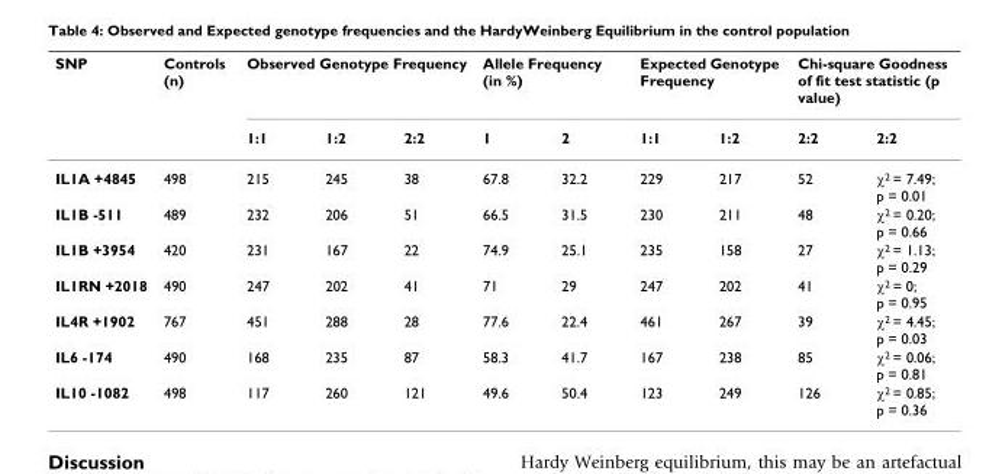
<table><thead><tr><td rowspan="2">SNP</td><td rowspan="2">Controls (n)</td><td colspan="3">Observed Genotype Frequency</td><td colspan="2">Allele Frequency (in %)</td><td colspan="2">Expected Genotype Frequency</td><td colspan="2">Chi-square Goodness of fit test statistic (p value)</td></tr><tr><td>1:1</td><td>1:2</td><td>2:2</td><td>1</td><td>2</td><td>1:1</td><td>1:2</td><td>2:2</td><td>2:2</td></tr></thead><tbody><tr><td>IL1A +4845</td><td>498</td><td>215</td><td>245</td><td>38</td><td>67.8</td><td>32.2</td><td>229</td><td>217</td><td>52</td><td>χ2 = 7.49; p = 0.01</td></tr><tr><td>IL1B -511</td><td>489</td><td>232</td><td>206</td><td>51</td><td>66.5</td><td>31.5</td><td>230</td><td>211</td><td>48</td><td>χ2 = 0.20; p = 0.66</td></tr><tr><td>IL1B +3954</td><td>420</td><td>231</td><td>167</td><td>22</td><td>74.9</td><td>25.1</td><td>235</td><td>158</td><td>27</td><td>χ2 = 1.13; p = 0.29</td></tr><tr><td>IL1RN +2018</td><td>490</td><td>247</td><td>202</td><td>41</td><td>71</td><td>29</td><td>247</td><td>202</td><td>41</td><td>χ2 = 0; p = 0.95</td></tr><tr><td>IL4R +1902</td><td>767</td><td>451</td><td>288</td><td>28</td><td>77.6</td><td>22.4</td><td>461</td><td>267</td><td>39</td><td>χ2 = 4.45; p = 0.03</td></tr><tr><td>IL6 -174</td><td>490</td><td>168</td><td>235</td><td>87</td><td>58.3</td><td>41.7</td><td>167</td><td>238</td><td>85</td><td>χ2 = 0.06; p = 0.81</td></tr><tr><td>IL10 -1082</td><td>498</td><td>117</td><td>260</td><td>121</td><td>49.6</td><td>50.4</td><td>123</td><td>249</td><td>126</td><td>χ2 = 0.85; p = 0.36</td></tr></tbody></table>